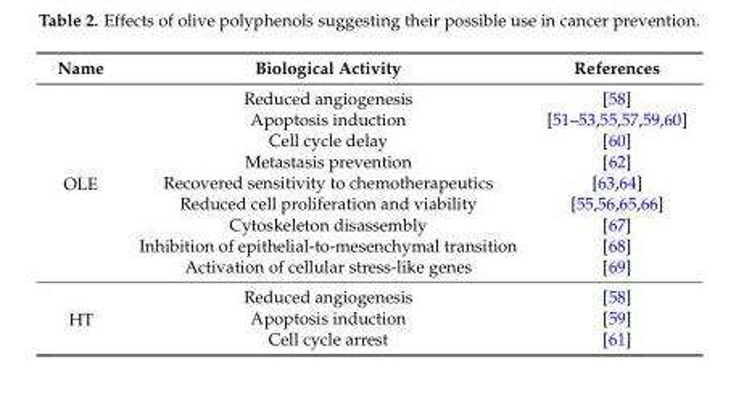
<table><thead><tr><td>Name</td><td>Biological Activity</td><td>References</td></tr></thead><tbody><tr><td rowspan="9">OLE</td><td>Reduced angiogenesis</td><td>[58]</td></tr><tr><td>Apoptosis induction</td><td>[51–53,55,57,59,60]</td></tr><tr><td>Cell cycle delay</td><td>[60]</td></tr><tr><td>Metastasis prevention</td><td>[62]</td></tr><tr><td>Recovered sensitivity to chemotherapeutics</td><td>[63,64]</td></tr><tr><td>Reduced cell proliferation and viability</td><td>[55,56,65,66]</td></tr><tr><td>Cytoskeleton disassembly</td><td>[67]</td></tr><tr><td>Inhibition of epithelial-to-mesenchymal transition</td><td>[68]</td></tr><tr><td>Activation of cellular stress-like genes</td><td>[69]</td></tr><tr><td rowspan="3">HT</td><td>Reduced angiogenesis</td><td>[58]</td></tr><tr><td>Apoptosis induction</td><td>[59]</td></tr><tr><td>Cell cycle arrest</td><td>[61]</td></tr></tbody></table>